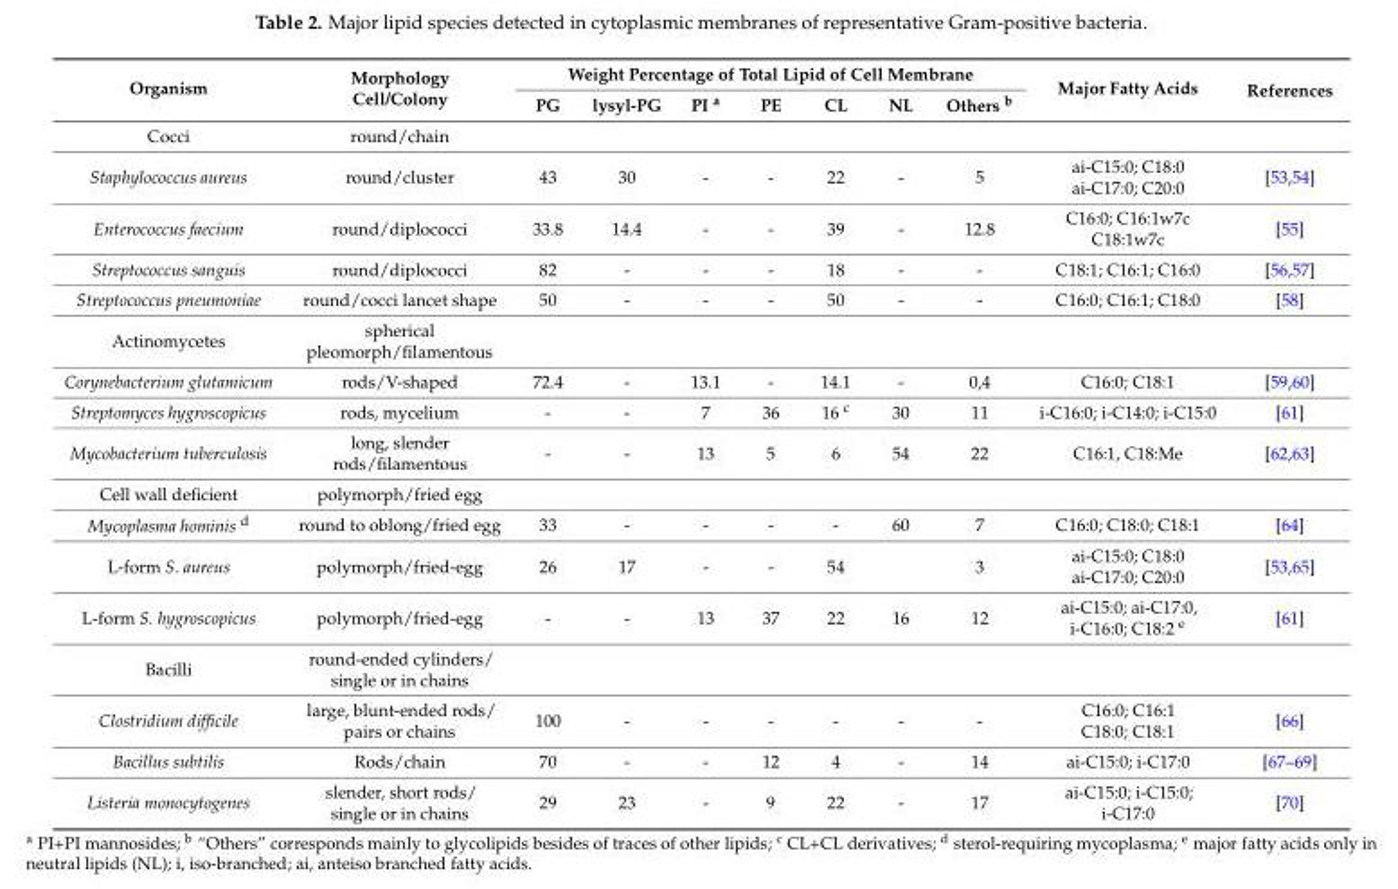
<table><thead><tr><td rowspan="2">Organism</td><td rowspan="2">Morphology Cell/Colony</td><td colspan="7">Weight Percentage of Total Lipid of Cell Membrane</td><td rowspan="2">Major Fatty Acids</td><td rowspan="2">References</td></tr><tr><td>PG</td><td>lysyl-PG</td><td>PI <sup>a</sup></td><td>PE</td><td>CL</td><td>NL</td><td>Others <sup>b</sup></td></tr></thead><tbody><tr><td>Cocci</td><td>round/chain</td><td></td><td></td><td></td><td></td><td></td><td></td><td></td><td></td><td></td></tr><tr><td>Staphylococcus aureus</td><td>round/cluster</td><td>43</td><td>30</td><td>-</td><td>-</td><td>22</td><td>-</td><td>5</td><td>ai-C15:0; C18:0 ai-C17:0; C20:0</td><td>[53,54]</td></tr><tr><td>Enterococcus faecium</td><td>round/diplococci</td><td>33.8</td><td>14.4</td><td>-</td><td>-</td><td>39</td><td>-</td><td>12.8</td><td>C16:0; C16:1w7c C18:1w7c</td><td>[55]</td></tr><tr><td>Streptococcus sanguis</td><td>round/diplococci</td><td>82</td><td>-</td><td>-</td><td>-</td><td>18</td><td>-</td><td>-</td><td>C18:1; C16:1; C16:0</td><td>[56,57]</td></tr><tr><td>Streptococcus pneumoniae</td><td>round/cocci lancet shape</td><td>50</td><td>-</td><td>-</td><td>-</td><td>50</td><td>-</td><td>-</td><td>C16:0; C16:1; C18:0</td><td>[58]</td></tr><tr><td>Actinomycetes</td><td>spherical pleomorph/filamentous</td><td></td><td></td><td></td><td></td><td></td><td></td><td></td><td></td><td></td></tr><tr><td>Corynebacterium glutamicum</td><td>rods/V-shaped</td><td>72.4</td><td>-</td><td>13.1</td><td>-</td><td>14.1</td><td>-</td><td>0,4</td><td>C16:0; C18:1</td><td>[59,60]</td></tr><tr><td>Streptomyces hygroscopicus</td><td>rods, mycelium</td><td>-</td><td>-</td><td>7</td><td>36</td><td>16 <sup>c</sup></td><td>30</td><td>11</td><td>i-C16:0; i-C14:0; i-C15:0</td><td>[61]</td></tr><tr><td>Mycobacterium tuberculosis</td><td>long, slender rods/filamentous</td><td>-</td><td>-</td><td>13</td><td>5</td><td>6</td><td>54</td><td>22</td><td>C16:1, C18:Me</td><td>[62,63]</td></tr><tr><td>Cell wall deficient</td><td>polymorph/fried egg</td><td></td><td></td><td></td><td></td><td></td><td></td><td></td><td></td><td></td></tr><tr><td>Mycoplasma hominis <sup>d</sup></td><td>round to oblong/fried egg</td><td>33</td><td>-</td><td>-</td><td>-</td><td>-</td><td>60</td><td>7</td><td>C16:0; C18:0; C18:1</td><td>[64]</td></tr><tr><td>L-form S. aureus</td><td>polymorph/fried-egg</td><td>26</td><td>17</td><td>-</td><td>-</td><td>54</td><td></td><td>3</td><td>ai-C15:0; C18:0 ai-C17:0; C20:0</td><td>[53,65]</td></tr><tr><td>L-form S. hygroscopicus</td><td>polymorph/fried-egg</td><td>-</td><td>-</td><td>13</td><td>37</td><td>22</td><td>16</td><td>12</td><td>ai-C15:0; ai-C17:0, i-C16:0; C18:2 <sup>e</sup></td><td>[61]</td></tr><tr><td>Bacilli</td><td>round-ended cylinders/ single or in chains</td><td></td><td></td><td></td><td></td><td></td><td></td><td></td><td></td><td></td></tr><tr><td>Clostridium difficile</td><td>large, blunt-ended rods/ pairs or chains</td><td>100</td><td>-</td><td>-</td><td>-</td><td>-</td><td>-</td><td>-</td><td>C16:0; C16:1 C18:0; C18:1</td><td>[66]</td></tr><tr><td>Bacillus subtilis</td><td>Rods/chain</td><td>70</td><td>-</td><td>-</td><td>12</td><td>4</td><td>-</td><td>14</td><td>ai-C15:0; i-C17:0</td><td>[67–69]</td></tr><tr><td>Listeria monocytogenes</td><td>slender, short rods/ single or in chains</td><td>29</td><td>23</td><td>-</td><td>9</td><td>22</td><td>-</td><td>17</td><td>ai-C15:0; i-C15:0; i-C17:0</td><td>[70]</td></tr></tbody></table>